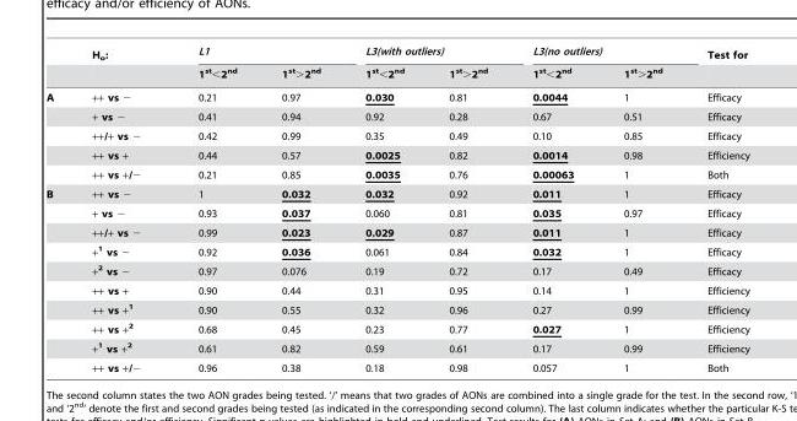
<table><thead><tr><td rowspan="2"></td><td rowspan="2">H<sub>o</sub>:</td><td colspan="2">L1</td><td colspan="2">L3(with outliers)</td><td colspan="2">L3(no outliers)</td><td rowspan="2">Test for</td></tr><tr><td>1<sup>st</sup>&lt;2<sup>nd</sup></td><td>1<sup>st</sup>&gt;2<sup>nd</sup></td><td>1<sup>st</sup>&lt;2<sup>nd</sup></td><td>1<sup>st</sup>&gt;2<sup>nd</sup></td><td>1<sup>st</sup>&lt;2<sup>nd</sup></td><td>1<sup>st</sup>&gt;2<sup>nd</sup></td></tr></thead><tbody><tr><td rowspan="5">A</td><td>++ vs −</td><td>0.21</td><td>0.97</td><td>0.030</td><td>0.81</td><td>0.0044</td><td>1</td><td>Efficacy</td></tr><tr><td>+ vs −</td><td>0.41</td><td>0.94</td><td>0.92</td><td>0.28</td><td>0.67</td><td>0.51</td><td>Efficacy</td></tr><tr><td>++/+ vs −</td><td>0.42</td><td>0.99</td><td>0.35</td><td>0.49</td><td>0.10</td><td>0.85</td><td>Efficacy</td></tr><tr><td>++ vs +</td><td>0.44</td><td>0.57</td><td>0.0025</td><td>0.82</td><td>0.0014</td><td>0.98</td><td>Efficiency</td></tr><tr><td>++ vs +/−</td><td>0.21</td><td>0.85</td><td>0.0035</td><td>0.76</td><td>0.00063</td><td>1</td><td>Both</td></tr><tr><td rowspan="10">B</td><td>++ vs −</td><td>1</td><td>0.032</td><td>0.032</td><td>0.92</td><td>0.011</td><td>1</td><td>Efficacy</td></tr><tr><td>+ vs −</td><td>0.93</td><td>0.037</td><td>0.060</td><td>0.81</td><td>0.035</td><td>0.97</td><td>Efficacy</td></tr><tr><td>++/+ vs −</td><td>0.99</td><td>0.023</td><td>0.029</td><td>0.87</td><td>0.011</td><td>1</td><td>Efficacy</td></tr><tr><td>+<sup>1</sup> vs −</td><td>0.92</td><td>0.036</td><td>0.061</td><td>0.84</td><td>0.032</td><td>1</td><td>Efficacy</td></tr><tr><td>+<sup>2</sup> vs −</td><td>0.97</td><td>0.076</td><td>0.19</td><td>0.72</td><td>0.17</td><td>0.49</td><td>Efficacy</td></tr><tr><td>++ vs +</td><td>0.90</td><td>0.44</td><td>0.31</td><td>0.95</td><td>0.14</td><td>1</td><td>Efficiency</td></tr><tr><td>++ vs +<sup>1</sup></td><td>0.90</td><td>0.55</td><td>0.32</td><td>0.96</td><td>0.27</td><td>0.99</td><td>Efficiency</td></tr><tr><td>++ vs +<sup>2</sup></td><td>0.68</td><td>0.45</td><td>0.23</td><td>0.77</td><td>0.027</td><td>1</td><td>Efficiency</td></tr><tr><td>+<sup>1</sup> vs +<sup>2</sup></td><td>0.61</td><td>0.82</td><td>0.59</td><td>0.61</td><td>0.17</td><td>0.99</td><td>Efficiency</td></tr><tr><td>++ vs +/−</td><td>0.96</td><td>0.38</td><td>0.18</td><td>0.98</td><td>0.057</td><td>1</td><td>Both</td></tr></tbody></table>